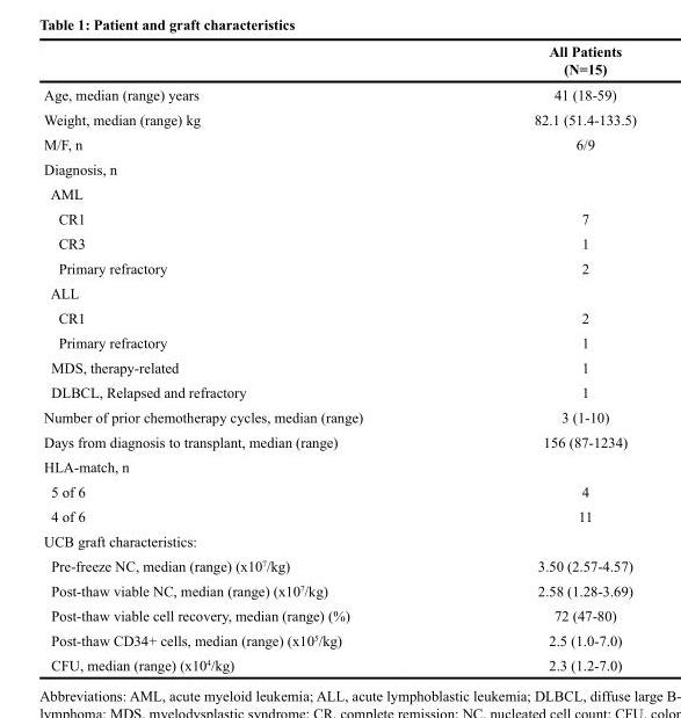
<table><thead><tr><td></td><td>All Patients (N=15)</td></tr></thead><tbody><tr><td>Age, median (range) years</td><td>41 (18-59)</td></tr><tr><td>Weight, median (range) kg</td><td>82.1 (51.4-133.5)</td></tr><tr><td>M/F, n</td><td>6/9</td></tr><tr><td colspan="2">Diagnosis, n</td></tr><tr><td colspan="2">AML</td></tr><tr><td>CR1</td><td>7</td></tr><tr><td>CR3</td><td>1</td></tr><tr><td>Primary refractory</td><td>2</td></tr><tr><td colspan="2">ALL</td></tr><tr><td>CR1</td><td>2</td></tr><tr><td>Primary refractory</td><td>1</td></tr><tr><td>MDS, therapy-related</td><td>1</td></tr><tr><td>DLBCL, Relapsed and refractory</td><td>1</td></tr><tr><td>Number of prior chemotherapy cycles, median (range)</td><td>3 (1-10)</td></tr><tr><td>Days from diagnosis to transplant, median (range)</td><td>156 (87-1234)</td></tr><tr><td colspan="2">HLA-match, n</td></tr><tr><td>5 of 6</td><td>4</td></tr><tr><td>4 of 6</td><td>11</td></tr><tr><td colspan="2">UCB graft characteristics:</td></tr><tr><td>Pre-freeze NC, median (range) (x10<sup>7</sup>/kg)</td><td>3.50 (2.57-4.57)</td></tr><tr><td>Post-thaw viable NC, median (range) (x10<sup>7</sup>/kg)</td><td>2.58 (1.28-3.69)</td></tr><tr><td>Post-thaw viable cell recovery, median (range) (%)</td><td>72 (47-80)</td></tr><tr><td>Post-thaw CD34+ cells, median (range) (x10<sup>5</sup>/kg)</td><td>2.5 (1.0-7.0)</td></tr><tr><td>CFU, median (range) (x10<sup>4</sup>/kg)</td><td>2.3 (1.2-7.0)</td></tr></tbody></table>